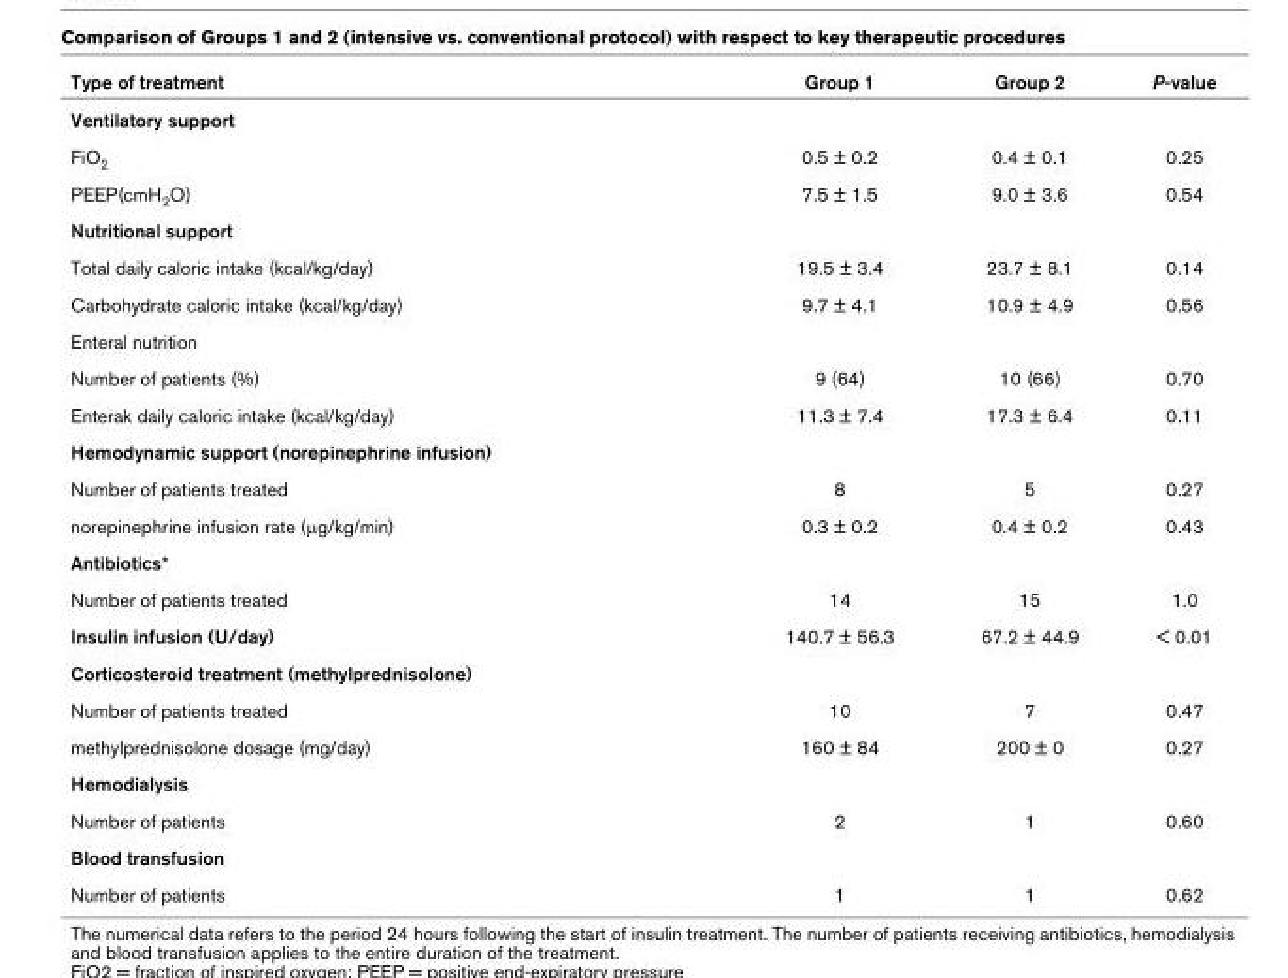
<table><thead><tr><td>Type of treatment</td><td>Group 1</td><td>Group 2</td><td>P-value</td></tr></thead><tbody><tr><td colspan="4">Ventilatory support</td></tr><tr><td>FiO<sub>2</sub></td><td>0.5 ± 0.2</td><td>0.4 ± 0.1</td><td>0.25</td></tr><tr><td>PEEP(cmH<sub>2</sub>O)</td><td>7.5 ± 1.5</td><td>9.0 ± 3.6</td><td>0.54</td></tr><tr><td colspan="4">Nutritional support</td></tr><tr><td>Total daily caloric intake (kcal/kg/day)</td><td>19.5 ± 3.4</td><td>23.7 ± 8.1</td><td>0.14</td></tr><tr><td>Carbohydrate caloric intake (kcal/kg/day)</td><td>9.7 ± 4.1</td><td>10.9 ± 4.9</td><td>0.56</td></tr><tr><td colspan="4">Enteral nutrition</td></tr><tr><td>Number of patients (%)</td><td>9 (64)</td><td>10 (66)</td><td>0.70</td></tr><tr><td>Enterak daily caloric intake (kcal/kg/day)</td><td>11.3 ± 7.4</td><td>17.3 ± 6.4</td><td>0.11</td></tr><tr><td colspan="4">Hemodynamic support (norepinephrine infusion)</td></tr><tr><td>Number of patients treated</td><td>8</td><td>5</td><td>0.27</td></tr><tr><td>norepinephrine infusion rate (μg/kg/min)</td><td>0.3 ± 0.2</td><td>0.4 ± 0.2</td><td>0.43</td></tr><tr><td colspan="4">Antibiotics*</td></tr><tr><td>Number of patients treated</td><td>14</td><td>15</td><td>1.0</td></tr><tr><td>Insulin infusion (U/day)</td><td>140.7 ± 56.3</td><td>67.2 ± 44.9</td><td>&lt; 0.01</td></tr><tr><td colspan="4">Corticosteroid treatment (methylprednisolone)</td></tr><tr><td>Number of patients treated</td><td>10</td><td>7</td><td>0.47</td></tr><tr><td>methylprednisolone dosage (mg/day)</td><td>160 ± 84</td><td>200 ± 0</td><td>0.27</td></tr><tr><td colspan="4">Hemodialysis</td></tr><tr><td>Number of patients</td><td>2</td><td>1</td><td>0.60</td></tr><tr><td colspan="4">Blood transfusion</td></tr><tr><td>Number of patients</td><td>1</td><td>1</td><td>0.62</td></tr></tbody></table>